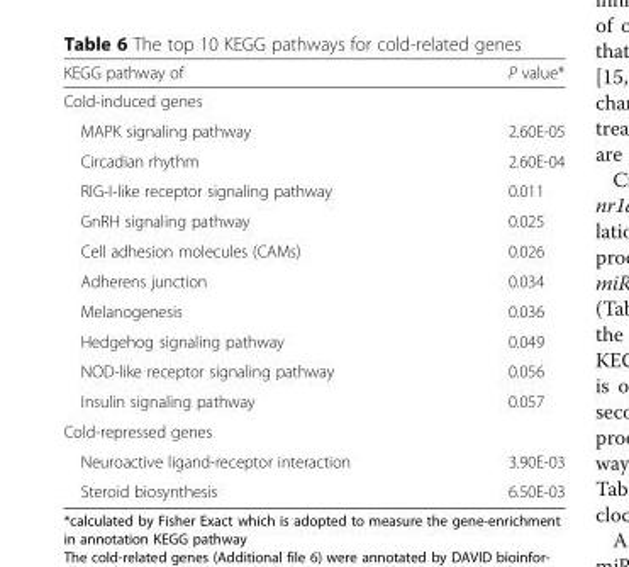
<table><thead><tr><td>KEGG pathway of</td><td>P value*</td></tr></thead><tbody><tr><td colspan="2">Cold-induced genes</td></tr><tr><td>MAPK signaling pathway</td><td>2.60E-05</td></tr><tr><td>Circadian rhythm</td><td>2.60E-04</td></tr><tr><td>RIG-I-like receptor signaling pathway</td><td>0.011</td></tr><tr><td>GnRH signaling pathway</td><td>0.025</td></tr><tr><td>Cell adhesion molecules (CAMs)</td><td>0.026</td></tr><tr><td>Adherens junction</td><td>0.034</td></tr><tr><td>Melanogenesis</td><td>0.036</td></tr><tr><td>Hedgehog signaling pathway</td><td>0.049</td></tr><tr><td>NOD-like receptor signaling pathway</td><td>0.056</td></tr><tr><td>Insulin signaling pathway</td><td>0.057</td></tr><tr><td colspan="2">Cold-repressed genes</td></tr><tr><td>Neuroactive ligand-receptor interaction</td><td>3.90E-03</td></tr><tr><td>Steroid biosynthesis</td><td>6.50E-03</td></tr></tbody></table>